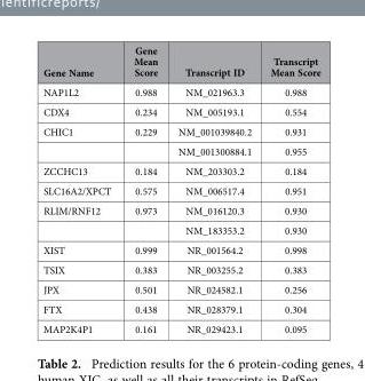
<table><thead><tr><td>Gene Name</td><td>Gene Mean Score</td><td>Transcript ID</td><td>Transcript Mean Score</td></tr></thead><tbody><tr><td>NAP1L2</td><td>0.988</td><td>NM_021963.3</td><td>0.988</td></tr><tr><td>CDX4</td><td>0.234</td><td>NM_005193.1</td><td>0.554</td></tr><tr><td rowspan="2">CHIC1</td><td>0.229</td><td>NM_001039840.2</td><td>0.931</td></tr><tr><td></td><td>NM_001300884.1</td><td>0.955</td></tr><tr><td>ZCCHC13</td><td>0.184</td><td>NM_203303.2</td><td>0.184</td></tr><tr><td>SLC16A2/XPCT</td><td>0.575</td><td>NM_006517.4</td><td>0.951</td></tr><tr><td rowspan="2">RLIM/RNF12</td><td>0.973</td><td>NM_016120.3</td><td>0.930</td></tr><tr><td></td><td>NM_183353.2</td><td>0.930</td></tr><tr><td>XIST</td><td>0.999</td><td>NR_001564.2</td><td>0.998</td></tr><tr><td>TSIX</td><td>0.383</td><td>NR_003255.2</td><td>0.383</td></tr><tr><td>JPX</td><td>0.501</td><td>NR_024582.1</td><td>0.256</td></tr><tr><td>FTX</td><td>0.438</td><td>NR_028379.1</td><td>0.304</td></tr><tr><td>MAP2K4P1</td><td>0.161</td><td>NR_029423.1</td><td>0.095</td></tr></tbody></table>